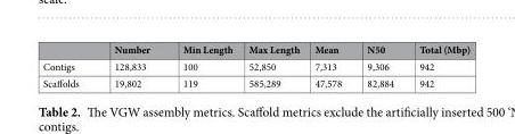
<table><thead><tr><td></td><td>Number</td><td>Min Length</td><td>Max Length</td><td>Mean</td><td>N50</td><td>Total (Mbp)</td></tr></thead><tbody><tr><td>Contigs</td><td>128,833</td><td>100</td><td>52,850</td><td>7,313</td><td>9,306</td><td>942</td></tr><tr><td>Scaffolds</td><td>19,802</td><td>119</td><td>585,289</td><td>47,578</td><td>82,884</td><td>942</td></tr></tbody></table>